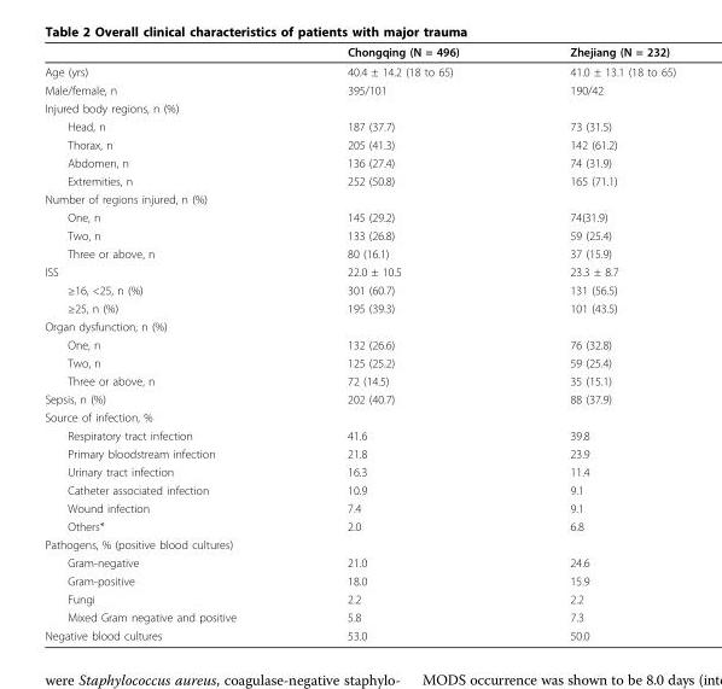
<table><thead><tr><td></td><td>Chongqing (N = 496)</td><td>Zhejiang (N = 232)</td></tr></thead><tbody><tr><td>Age (yrs)</td><td>40.4 ± 14.2 (18 to 65)</td><td>41.0 ± 13.1 (18 to 65)</td></tr><tr><td>Male/female, n</td><td>395/101</td><td>190/42</td></tr><tr><td colspan="3">Injured body regions, n (%)</td></tr><tr><td>Head, n</td><td>187 (37.7)</td><td>73 (31.5)</td></tr><tr><td>Thorax, n</td><td>205 (41.3)</td><td>142 (61.2)</td></tr><tr><td>Abdomen, n</td><td>136 (27.4)</td><td>74 (31.9)</td></tr><tr><td>Extremities, n</td><td>252 (50.8)</td><td>165 (71.1)</td></tr><tr><td colspan="3">Number of regions injured, n (%)</td></tr><tr><td>One, n</td><td>145 (29.2)</td><td>74(31.9)</td></tr><tr><td>Two, n</td><td>133 (26.8)</td><td>59 (25.4)</td></tr><tr><td>Three or above, n</td><td>80 (16.1)</td><td>37 (15.9)</td></tr><tr><td>ISS</td><td>22.0 ± 10.5</td><td>23.3 ± 8.7</td></tr><tr><td>≥16, &lt;25, n (%)</td><td>301 (60.7)</td><td>131 (56.5)</td></tr><tr><td>≥25, n (%)</td><td>195 (39.3)</td><td>101 (43.5)</td></tr><tr><td colspan="3">Organ dysfunction, n (%)</td></tr><tr><td>One, n</td><td>132 (26.6)</td><td>76 (32.8)</td></tr><tr><td>Two, n</td><td>125 (25.2)</td><td>59 (25.4)</td></tr><tr><td>Three or above, n</td><td>72 (14.5)</td><td>35 (15.1)</td></tr><tr><td>Sepsis, n (%)</td><td>202 (40.7)</td><td>88 (37.9)</td></tr><tr><td colspan="3">Source of infection, %</td></tr><tr><td>Respiratory tract infection</td><td>41.6</td><td>39.8</td></tr><tr><td>Primary bloodstream infection</td><td>21.8</td><td>23.9</td></tr><tr><td>Urinary tract infection</td><td>16.3</td><td>11.4</td></tr><tr><td>Catheter associated infection</td><td>10.9</td><td>9.1</td></tr><tr><td>Wound infection</td><td>7.4</td><td>9.1</td></tr><tr><td>Others*</td><td>2.0</td><td>6.8</td></tr><tr><td colspan="3">Pathogens, % (positive blood cultures)</td></tr><tr><td>Gram-negative</td><td>21.0</td><td>24.6</td></tr><tr><td>Gram-positive</td><td>18.0</td><td>15.9</td></tr><tr><td>Fungi</td><td>2.2</td><td>2.2</td></tr><tr><td>Mixed Gram negative and positive</td><td>5.8</td><td>7.3</td></tr><tr><td>Negative blood cultures</td><td>53.0</td><td>50.0</td></tr></tbody></table>